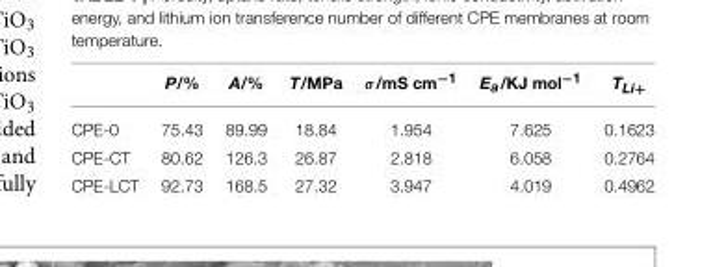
<table><thead><tr><td></td><td>P/%</td><td>A/%</td><td>T/MPa</td><td>σ/mS cm<sup>−1</sup></td><td>Ea/KJ mol−1</td><td>TLi+</td></tr></thead><tbody><tr><td>CPE-0</td><td>75.43</td><td>89.99</td><td>18.84</td><td>1.954</td><td>7.625</td><td>0.1623</td></tr><tr><td>CPE-CT</td><td>80.62</td><td>126.3</td><td>26.87</td><td>2.818</td><td>6.058</td><td>0.2764</td></tr><tr><td>CPE-LCT</td><td>92.73</td><td>168.5</td><td>27.32</td><td>3.947</td><td>4.019</td><td>0.4962</td></tr></tbody></table>